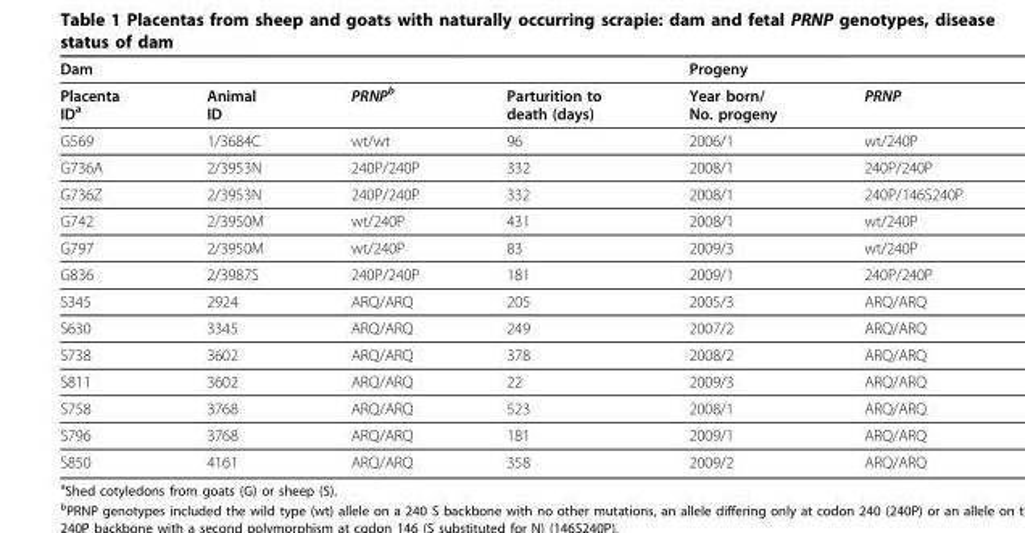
<table><tbody><tr><td>Dam</td><td></td><td></td><td></td><td>Progeny</td><td></td></tr><tr><td>Placenta ID<sup>a</sup></td><td>Animal ID</td><td>PRNP<sup>b</sup></td><td>Parturition to death (days)</td><td>Year born/ No. progeny</td><td>PRNP</td></tr><tr><td>G569</td><td>1/3684C</td><td>wt/wt</td><td>96</td><td>2006/1</td><td>wt/240P</td></tr><tr><td>G736A</td><td>2/3953N</td><td>240P/240P</td><td>332</td><td>2008/1</td><td>240P/240P</td></tr><tr><td>G736Z</td><td>2/3953N</td><td>240P/240P</td><td>332</td><td>2008/1</td><td>240P/146S240P</td></tr><tr><td>G742</td><td>2/3950M</td><td>wt/240P</td><td>431</td><td>2008/1</td><td>wt/240P</td></tr><tr><td>G797</td><td>2/3950M</td><td>wt/240P</td><td>83</td><td>2009/3</td><td>wt/240P</td></tr><tr><td>G836</td><td>2/3987S</td><td>240P/240P</td><td>181</td><td>2009/1</td><td>240P/240P</td></tr><tr><td>S345</td><td>2924</td><td>ARQ/ARQ</td><td>205</td><td>2005/3</td><td>ARQ/ARQ</td></tr><tr><td>S630</td><td>3345</td><td>ARQ/ARQ</td><td>249</td><td>2007/2</td><td>ARQ/ARQ</td></tr><tr><td>S738</td><td>3602</td><td>ARQ/ARQ</td><td>378</td><td>2008/2</td><td>ARQ/ARQ</td></tr><tr><td>S811</td><td>3602</td><td>ARQ/ARQ</td><td>22</td><td>2009/3</td><td>ARQ/ARQ</td></tr><tr><td>S758</td><td>3768</td><td>ARQ/ARQ</td><td>523</td><td>2008/1</td><td>ARQ/ARQ</td></tr><tr><td>S796</td><td>3768</td><td>ARQ/ARQ</td><td>181</td><td>2009/1</td><td>ARQ/ARQ</td></tr><tr><td>S850</td><td>4161</td><td>ARQ/ARQ</td><td>358</td><td>2009/2</td><td>ARQ/ARQ</td></tr></tbody></table>